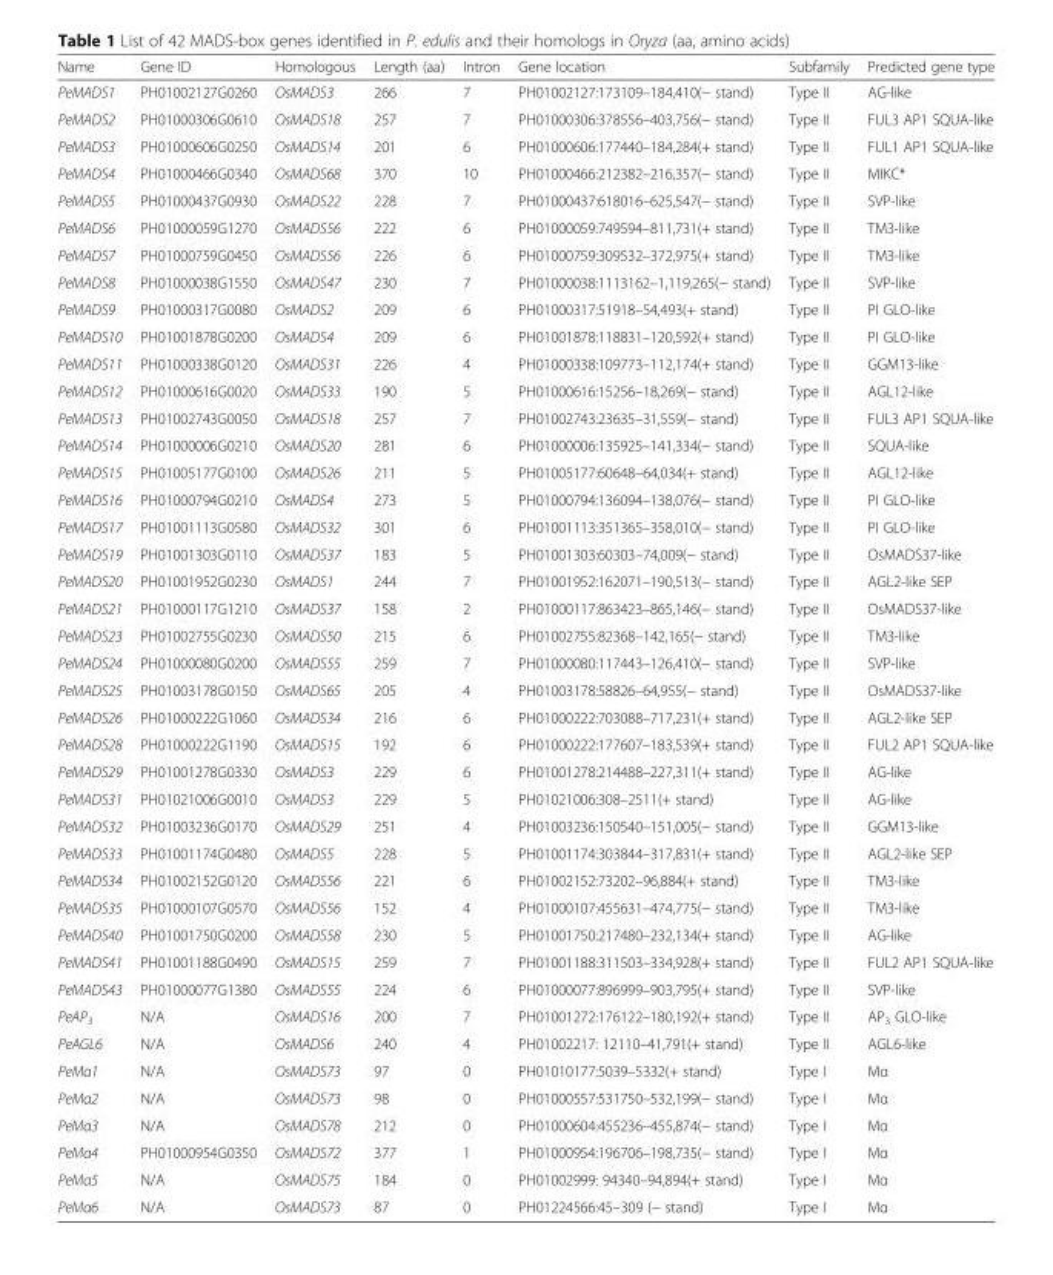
<table><thead><tr><td>Name</td><td>Gene ID</td><td>Homologous</td><td>Length (aa)</td><td>Intron</td><td>Gene location</td><td>Subfamily</td><td>Predicted gene type</td></tr></thead><tbody><tr><td>PeMADS1</td><td>PH01002127G0260</td><td>OsMADS3</td><td>266</td><td>7</td><td>PH01002127:173109–184,410(− stand)</td><td>Type II</td><td>AG-like</td></tr><tr><td>PeMADS2</td><td>PH01000306G0610</td><td>OsMADS18</td><td>257</td><td>7</td><td>PH01000306:378556–403,756(− stand)</td><td>Type II</td><td>FUL3 AP1 SQUA-like</td></tr><tr><td>PeMADS3</td><td>PH01000606G0250</td><td>OsMADS14</td><td>201</td><td>6</td><td>PH01000606:177440–184,284(+ stand)</td><td>Type II</td><td>FUL1 AP1 SQUA-like</td></tr><tr><td>PeMADS4</td><td>PH01000466G0340</td><td>OsMADS68</td><td>370</td><td>10</td><td>PH01000466:212382–216,357(− stand)</td><td>Type II</td><td>MIKC*</td></tr><tr><td>PeMADS5</td><td>PH01000437G0930</td><td>OsMADS22</td><td>228</td><td>7</td><td>PH01000437:618016–625,547(− stand)</td><td>Type II</td><td>SVP-like</td></tr><tr><td>PeMADS6</td><td>PH01000059G1270</td><td>OsMADS56</td><td>222</td><td>6</td><td>PH01000059:749594–811,731(+ stand)</td><td>Type II</td><td>TM3-like</td></tr><tr><td>PeMADS7</td><td>PH01000759G0450</td><td>OsMADS56</td><td>226</td><td>6</td><td>PH01000759:309532–372,975(+ stand)</td><td>Type II</td><td>TM3-like</td></tr><tr><td>PeMADS8</td><td>PH01000038G1550</td><td>OsMADS47</td><td>230</td><td>7</td><td>PH01000038:1113162–1,119,265(− stand)</td><td>Type II</td><td>SVP-like</td></tr><tr><td>PeMADS9</td><td>PH01000317G0080</td><td>OsMADS2</td><td>209</td><td>6</td><td>PH01000317:51918–54,493(+ stand)</td><td>Type II</td><td>PI GLO-like</td></tr><tr><td>PeMADS10</td><td>PH01001878G0200</td><td>OsMADS4</td><td>209</td><td>6</td><td>PH01001878:118831–120,592(+ stand)</td><td>Type II</td><td>PI GLO-like</td></tr><tr><td>PeMADS11</td><td>PH01000338G0120</td><td>OsMADS31</td><td>226</td><td>4</td><td>PH01000338:109773–112,174(+ stand)</td><td>Type II</td><td>GGM13-like</td></tr><tr><td>PeMADS12</td><td>PH01000616G0020</td><td>OsMADS33</td><td>190</td><td>5</td><td>PH01000616:15256–18,269(− stand)</td><td>Type II</td><td>AGL12-like</td></tr><tr><td>PeMADS13</td><td>PH01002743G0050</td><td>OsMADS18</td><td>257</td><td>7</td><td>PH01002743:23635–31,559(− stand)</td><td>Type II</td><td>FUL3 AP1 SQUA-like</td></tr><tr><td>PeMADS14</td><td>PH01000006G0210</td><td>OsMADS20</td><td>281</td><td>6</td><td>PH01000006:135925–141,334(− stand)</td><td>Type II</td><td>SQUA-like</td></tr><tr><td>PeMADS15</td><td>PH01005177G0100</td><td>OsMADS26</td><td>211</td><td>5</td><td>PH01005177:60648–64,034(+ stand)</td><td>Type II</td><td>AGL12-like</td></tr><tr><td>PeMADS16</td><td>PH01000794G0210</td><td>OsMADS4</td><td>273</td><td>5</td><td>PH01000794:136094–138,076(− stand)</td><td>Type II</td><td>PI GLO-like</td></tr><tr><td>PeMADS17</td><td>PH01001113G0580</td><td>OsMADS32</td><td>301</td><td>6</td><td>PH01001113:351365–358,010(− stand)</td><td>Type II</td><td>PI GLO-like</td></tr><tr><td>PeMADS19</td><td>PH01001303G0110</td><td>OsMADS37</td><td>183</td><td>5</td><td>PH01001303:60303–74,009(− stand)</td><td>Type II</td><td>OsMADS37-like</td></tr><tr><td>PeMADS20</td><td>PH01001952G0230</td><td>OsMADS1</td><td>244</td><td>7</td><td>PH01001952:162071–190,513(− stand)</td><td>Type II</td><td>AGL2-like SEP</td></tr><tr><td>PeMADS21</td><td>PH01000117G1210</td><td>OsMADS37</td><td>158</td><td>2</td><td>PH01000117:863423–865,146(− stand)</td><td>Type II</td><td>OsMADS37-like</td></tr><tr><td>PeMADS23</td><td>PH01002755G0230</td><td>OsMADS50</td><td>215</td><td>6</td><td>PH01002755:82368–142,165(− stand)</td><td>Type II</td><td>TM3-like</td></tr><tr><td>PeMADS24</td><td>PH01000080G0200</td><td>OsMADS55</td><td>259</td><td>7</td><td>PH01000080:117443–126,410(− stand)</td><td>Type II</td><td>SVP-like</td></tr><tr><td>PeMADS25</td><td>PH01003178G0150</td><td>OsMADS65</td><td>205</td><td>4</td><td>PH01003178:58826–64,955(− stand)</td><td>Type II</td><td>OsMADS37-like</td></tr><tr><td>PeMADS26</td><td>PH01000222G1060</td><td>OsMADS34</td><td>216</td><td>6</td><td>PH01000222:703088–717,231(+ stand)</td><td>Type II</td><td>AGL2-like SEP</td></tr><tr><td>PeMADS28</td><td>PH01000222G1190</td><td>OsMADS15</td><td>192</td><td>6</td><td>PH01000222:177607–183,539(+ stand)</td><td>Type II</td><td>FUL2 AP1 SQUA-like</td></tr><tr><td>PeMADS29</td><td>PH01001278G0330</td><td>OsMADS3</td><td>229</td><td>6</td><td>PH01001278:214488–227,311(+ stand)</td><td>Type II</td><td>AG-like</td></tr><tr><td>PeMADS31</td><td>PH01021006G0010</td><td>OsMADS3</td><td>229</td><td>5</td><td>PH01021006:308–2511(+ stand)</td><td>Type II</td><td>AG-like</td></tr><tr><td>PeMADS32</td><td>PH01003236G0170</td><td>OsMADS29</td><td>251</td><td>4</td><td>PH01003236:150540–151,005(− stand)</td><td>Type II</td><td>GGM13-like</td></tr><tr><td>PeMADS33</td><td>PH01001174G0480</td><td>OsMADS5</td><td>228</td><td>5</td><td>PH01001174:303844–317,831(+ stand)</td><td>Type II</td><td>AGL2-like SEP</td></tr><tr><td>PeMADS34</td><td>PH01002152G0120</td><td>OsMADS56</td><td>221</td><td>6</td><td>PH01002152:73202–96,884(+ stand)</td><td>Type II</td><td>TM3-like</td></tr><tr><td>PeMADS35</td><td>PH01000107G0570</td><td>OsMADS56</td><td>152</td><td>4</td><td>PH01000107:455631–474,775(− stand)</td><td>Type II</td><td>TM3-like</td></tr><tr><td>PeMADS40</td><td>PH01001750G0200</td><td>OsMADS58</td><td>230</td><td>5</td><td>PH01001750:217480–232,134(+ stand)</td><td>Type II</td><td>AG-like</td></tr><tr><td>PeMADS41</td><td>PH01001188G0490</td><td>OsMADS15</td><td>259</td><td>7</td><td>PH01001188:311503–334,928(+ stand)</td><td>Type II</td><td>FUL2 AP1 SQUA-like</td></tr><tr><td>PeMADS43</td><td>PH01000077G1380</td><td>OsMADS55</td><td>224</td><td>6</td><td>PH01000077:896999–903,795(+ stand)</td><td>Type II</td><td>SVP-like</td></tr><tr><td>PeAP<sub>3</sub></td><td>N/A</td><td>OsMADS16</td><td>200</td><td>7</td><td>PH01001272:176122–180,192(+ stand)</td><td>Type II</td><td>AP<sub>3</sub> GLO-like</td></tr><tr><td>PeAGL6</td><td>N/A</td><td>OsMADS6</td><td>240</td><td>4</td><td>PH01002217: 12110–41,791(+ stand)</td><td>Type II</td><td>AGL6-like</td></tr><tr><td>PeMα1</td><td>N/A</td><td>OsMADS73</td><td>97</td><td>0</td><td>PH01010177:5039–5332(+ stand)</td><td>Type I</td><td>Mα</td></tr><tr><td>PeMα2</td><td>N/A</td><td>OsMADS73</td><td>98</td><td>0</td><td>PH01000557:531750–532,199(− stand)</td><td>Type I</td><td>Mα</td></tr><tr><td>PeMα3</td><td>N/A</td><td>OsMADS78</td><td>212</td><td>0</td><td>PH01000604:455236–455,874(− stand)</td><td>Type I</td><td>Mα</td></tr><tr><td>PeMα4</td><td>PH01000954G0350</td><td>OsMADS72</td><td>377</td><td>1</td><td>PH01000954:196706–198,735(− stand)</td><td>Type I</td><td>Mα</td></tr><tr><td>PeMα5</td><td>N/A</td><td>OsMADS75</td><td>184</td><td>0</td><td>PH01002999: 94340–94,894(+ stand)</td><td>Type I</td><td>Mα</td></tr><tr><td>PeMα6</td><td>N/A</td><td>OsMADS73</td><td>87</td><td>0</td><td>PH01224566:45–309 (− stand)</td><td>Type I</td><td>Mα</td></tr></tbody></table>